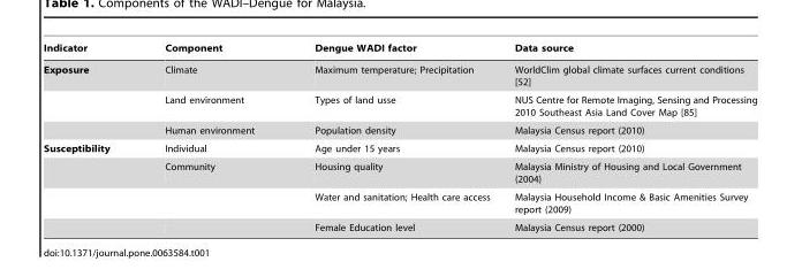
<table><thead><tr><td>Indicator</td><td>Component</td><td>Dengue WADI factor</td><td>Data source</td></tr></thead><tbody><tr><td rowspan="3">Exposure</td><td>Climate</td><td>Maximum temperature; Precipitation</td><td>WorldClim global climate surfaces current conditions [52]</td></tr><tr><td>Land environment</td><td>Types of land usse</td><td>NUS Centre for Remote Imaging, Sensing and Processing 2010 Southeast Asia Land Cover Map [85]</td></tr><tr><td>Human environment</td><td>Population density</td><td>Malaysia Census report (2010)</td></tr><tr><td rowspan="4">Susceptibility</td><td>Individual</td><td>Age under 15 years</td><td>Malaysia Census report (2010)</td></tr><tr><td>Community</td><td>Housing quality</td><td>Malaysia Ministry of Housing and Local Government (2004)</td></tr><tr><td></td><td>Water and sanitation; Health care access</td><td>Malaysia Household Income &amp; Basic Amenities Survey report (2009)</td></tr><tr><td></td><td>Female Education level</td><td>Malaysia Census report (2000)</td></tr></tbody></table>